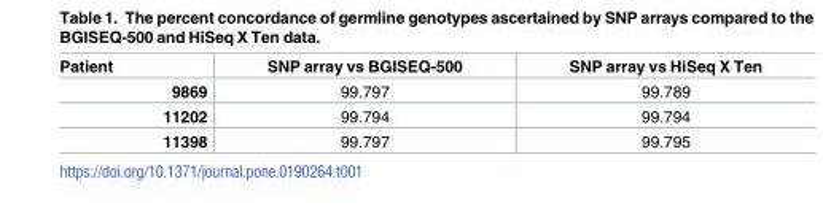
<table><thead><tr><td>Patient</td><td>SNP array vs BGISEQ-500</td><td>SNP array vs HiSeq X Ten</td></tr></thead><tbody><tr><td>9869</td><td>99.797</td><td>99.789</td></tr><tr><td>11202</td><td>99.794</td><td>99.794</td></tr><tr><td>11398</td><td>99.797</td><td>99.795</td></tr></tbody></table>